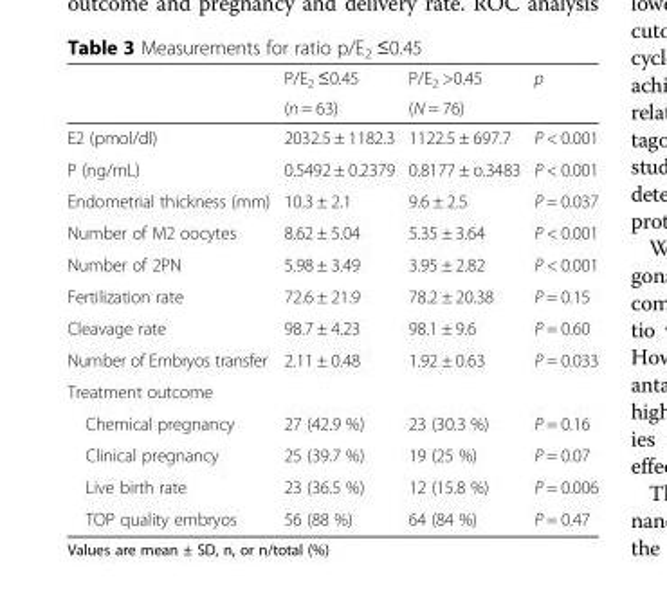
<table><thead><tr><td rowspan="2"></td><td rowspan="2">P/E<sub>2</sub> ≤0.45 (n = 63)</td><td rowspan="2">P/E<sub>2</sub> &gt;0.45 (N = 76)</td><td rowspan="2">p</td></tr><tr></tr></thead><tbody><tr><td>E2 (pmol/dl)</td><td>2032.5 ± 1182.3</td><td>1122.5 ± 697.7</td><td>P &lt; 0.001</td></tr><tr><td>P (ng/mL)</td><td>0.5492 ± 0.2379</td><td>0.8177 ± o.3483</td><td>P &lt; 0.001</td></tr><tr><td>Endometrial thickness (mm)</td><td>10.3 ± 2.1</td><td>9.6 ± 2.5</td><td>P = 0.037</td></tr><tr><td>Number of M2 oocytes</td><td>8.62 ± 5.04</td><td>5.35 ± 3.64</td><td>P &lt; 0.001</td></tr><tr><td>Number of 2PN</td><td>5.98 ± 3.49</td><td>3.95 ± 2.82</td><td>P &lt; 0.001</td></tr><tr><td>Fertilization rate</td><td>72.6 ± 21.9</td><td>78.2 ± 20.38</td><td>P = 0.15</td></tr><tr><td>Cleavage rate</td><td>98.7 ± 4.23</td><td>98.1 ± 9.6</td><td>P = 0.60</td></tr><tr><td>Number of Embryos transfer</td><td>2.11 ± 0.48</td><td>1.92 ± 0.63</td><td>P = 0.033</td></tr><tr><td colspan="4">Treatment outcome</td></tr><tr><td>Chemical pregnancy</td><td>27 (42.9 %)</td><td>23 (30.3 %)</td><td>P = 0.16</td></tr><tr><td>Clinical pregnancy</td><td>25 (39.7 %)</td><td>19 (25 %)</td><td>P = 0.07</td></tr><tr><td>Live birth rate</td><td>23 (36.5 %)</td><td>12 (15.8 %)</td><td>P = 0.006</td></tr><tr><td>TOP quality embryos</td><td>56 (88 %)</td><td>64 (84 %)</td><td>P = 0.47</td></tr></tbody></table>